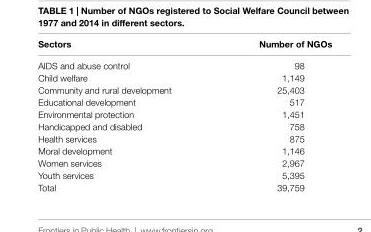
<table><thead><tr><td>sectors</td><td>Number of NGOs</td></tr></thead><tbody><tr><td>AIDS and abuse control</td><td>98</td></tr><tr><td>Child welfare</td><td>1,149</td></tr><tr><td>Community and rural development</td><td>25,403</td></tr><tr><td>Educational development</td><td>517</td></tr><tr><td>Environmental protection</td><td>1,451</td></tr><tr><td>Handicapped and disabled</td><td>758</td></tr><tr><td>Health services</td><td>875</td></tr><tr><td>Moral development</td><td>1,146</td></tr><tr><td>Women services</td><td>2,967</td></tr><tr><td>Youth services</td><td>5,395</td></tr><tr><td>Total</td><td>39,759</td></tr></tbody></table>